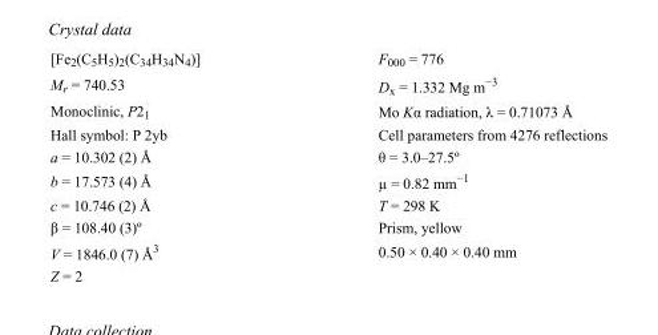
<table><tbody><tr><td>[Fe<sub>2</sub>(C<sub>5</sub>H<sub>5</sub>)<sub>2</sub>(C<sub>34</sub>H<sub>34</sub>N<sub>4</sub>)]</td><td>F000 = 776</td></tr><tr><td>M<sub>r</sub> = 740.53</td><td>D<sub>x</sub> = 1.332 Mg m<sup>−3</sup></td></tr><tr><td>Monoclinic, P2<sub>1</sub></td><td>Mo Kα radiation, λ = 0.71073 Å</td></tr><tr><td>Hall symbol: P 2yb</td><td>Cell parameters from 4276 reflections</td></tr><tr><td>a = 10.302 (2) Å</td><td>θ = 3.0–27.5º</td></tr><tr><td>b = 17.573 (4) Å</td><td>µ = 0.82 mm<sup>−1</sup></td></tr><tr><td>c = 10.746 (2) Å</td><td>T = 298 K</td></tr><tr><td>β = 108.40 (3)º</td><td>Prism, yellow</td></tr><tr><td>V = 1846.0 (7) Å<sup>3</sup></td><td>0.50 × 0.40 × 0.40 mm</td></tr><tr><td>Z = 2</td><td></td></tr></tbody></table>